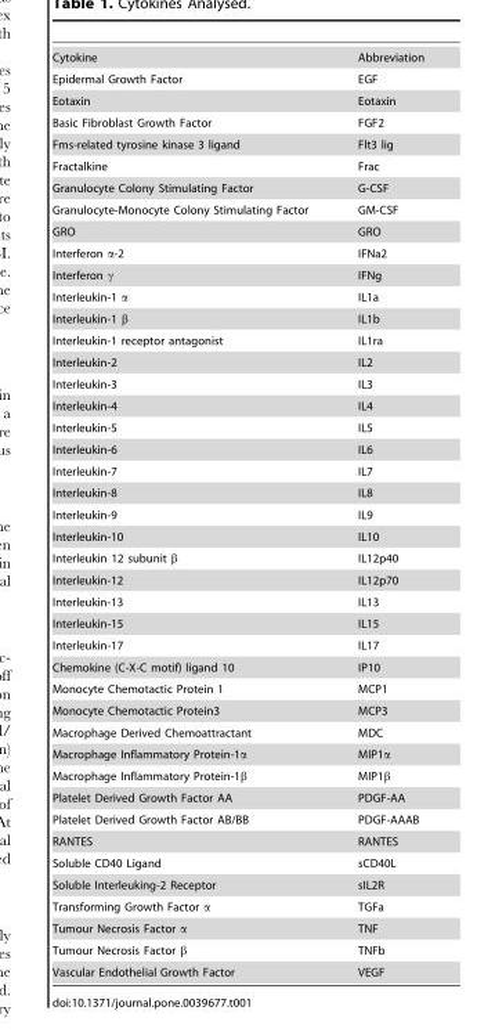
<table><tbody><tr><td>Cytokine</td><td>Abbreviation</td></tr><tr><td>Epidermal Growth Factor</td><td>EGF</td></tr><tr><td>Eotaxin</td><td>Eotaxin</td></tr><tr><td>Basic Fibroblast Growth Factor</td><td>FGF2</td></tr><tr><td>Fms-related tyrosine kinase 3 ligand</td><td>Flt3 lig</td></tr><tr><td>Fractalkine</td><td>Frac</td></tr><tr><td>Granulocyte Colony Stimulating Factor</td><td>G-CSF</td></tr><tr><td>Granulocyte-Monocyte Colony Stimulating Factor</td><td>GM-CSF</td></tr><tr><td>GRO</td><td>GRO</td></tr><tr><td>Interferon α-2</td><td>IFNa2</td></tr><tr><td>Interferon γ</td><td>IFNg</td></tr><tr><td>Interleukin-1 α</td><td>IL1a</td></tr><tr><td>Interleukin-1 β</td><td>IL1b</td></tr><tr><td>Interleukin-1 receptor antagonist</td><td>IL1ra</td></tr><tr><td>Interleukin-2</td><td>IL2</td></tr><tr><td>Interleukin-3</td><td>IL3</td></tr><tr><td>Interleukin-4</td><td>IL4</td></tr><tr><td>Interleukin-5</td><td>IL5</td></tr><tr><td>Interleukin-6</td><td>IL6</td></tr><tr><td>Interleukin-7</td><td>IL7</td></tr><tr><td>Interleukin-8</td><td>IL8</td></tr><tr><td>Interleukin-9</td><td>IL9</td></tr><tr><td>Interleukin-10</td><td>IL10</td></tr><tr><td>Interleukin 12 subunit β</td><td>IL12p40</td></tr><tr><td>Interleukin-12</td><td>IL12p70</td></tr><tr><td>Interleukin-13</td><td>IL13</td></tr><tr><td>Interleukin-15</td><td>IL15</td></tr><tr><td>Interleukin-17</td><td>IL17</td></tr><tr><td>Chemokine (C-X-C motif) ligand 10</td><td>IP10</td></tr><tr><td>Monocyte Chemotactic Protein 1</td><td>MCP1</td></tr><tr><td>Monocyte Chemotactic Protein3</td><td>MCP3</td></tr><tr><td>Macrophage Derived Chemoattractant</td><td>MDC</td></tr><tr><td>Macrophage Inflammatory Protein-1α</td><td>MIP1α</td></tr><tr><td>Macrophage Inflammatory Protein-1β</td><td>MIP1β</td></tr><tr><td>Platelet Derived Growth Factor AA</td><td>PDGF-AA</td></tr><tr><td>Platelet Derived Growth Factor AB/BB</td><td>PDGF-AAAB</td></tr><tr><td>RANTES</td><td>RANTES</td></tr><tr><td>Soluble CD40 Ligand</td><td>sCD40L</td></tr><tr><td>Soluble Interleuking-2 Receptor</td><td>sIL2R</td></tr><tr><td>Transforming Growth Factor α</td><td>TGFa</td></tr><tr><td>Tumour Necrosis Factor α</td><td>TNF</td></tr><tr><td>Tumour Necrosis Factor β</td><td>TNFb</td></tr><tr><td>Vascular Endothelial Growth Factor</td><td>VEGF</td></tr></tbody></table>